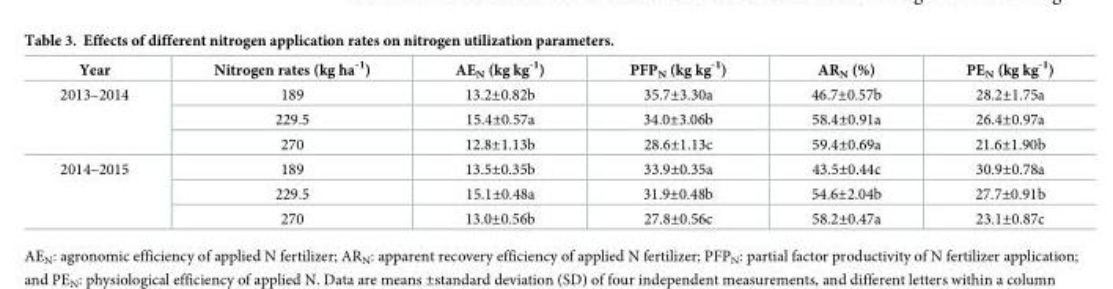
<table><thead><tr><td>Year</td><td>Nitrogen rates (kg ha<sup>-1</sup>)</td><td>AE<sub>N</sub> (kg kg<sup>-1</sup>)</td><td>PFP<sub>N</sub> (kg kg<sup>-1</sup>)</td><td>AR<sub>N</sub> (%)</td><td>PE<sub>N</sub> (kg kg<sup>-1</sup>)</td></tr></thead><tbody><tr><td rowspan="3">2013–2014</td><td>189</td><td>13.2±0.82b</td><td>35.7±3.30a</td><td>46.7±0.57b</td><td>28.2±1.75a</td></tr><tr><td>229.5</td><td>15.4±0.57a</td><td>34.0±3.06b</td><td>58.4±0.91a</td><td>26.4±0.97a</td></tr><tr><td>270</td><td>12.8±1.13b</td><td>28.6±1.13c</td><td>59.4±0.69a</td><td>21.6±1.90b</td></tr><tr><td rowspan="3">2014–2015</td><td>189</td><td>13.5±0.35b</td><td>33.9±0.35a</td><td>43.5±0.44c</td><td>30.9±0.78a</td></tr><tr><td>229.5</td><td>15.1±0.48a</td><td>31.9±0.48b</td><td>54.6±2.04b</td><td>27.7±0.91b</td></tr><tr><td>270</td><td>13.0±0.56b</td><td>27.8±0.56c</td><td>58.2±0.47a</td><td>23.1±0.87c</td></tr></tbody></table>